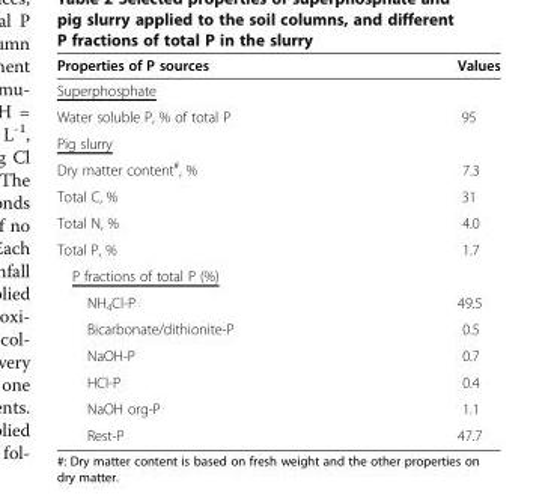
<table><thead><tr><td>Properties of P sources</td><td>Values</td></tr></thead><tbody><tr><td colspan="2">Superphosphate</td></tr><tr><td>Water soluble P, % of total P</td><td>95</td></tr><tr><td colspan="2">Pig slurry</td></tr><tr><td>Dry matter content<sup>#</sup>, %</td><td>7.3</td></tr><tr><td>Total C, %</td><td>31</td></tr><tr><td>Total N, %</td><td>4.0</td></tr><tr><td>Total P, %</td><td>1.7</td></tr><tr><td colspan="2">P fractions of total P (%)</td></tr><tr><td>NH<sub>4</sub>Cl-P</td><td>49.5</td></tr><tr><td>Bicarbonate/dithionite-P</td><td>0.5</td></tr><tr><td>NaOH-P</td><td>0.7</td></tr><tr><td>HCl-P</td><td>0.4</td></tr><tr><td>NaOH org-P</td><td>1.1</td></tr><tr><td>Rest-P</td><td>47.7</td></tr></tbody></table>